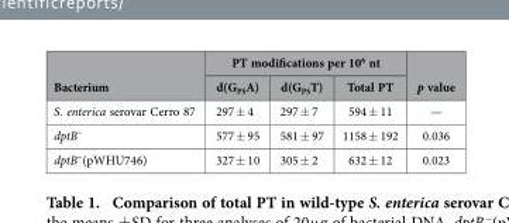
<table><thead><tr><td rowspan="2">Bacterium</td><td colspan="3">PT modifications per 10<sup>6</sup> nt</td><td rowspan="2">p value</td></tr><tr><td>d(G<sub>PS</sub>A)</td><td>d(G<sub>PS</sub>T)</td><td>Total PT</td></tr></thead><tbody><tr><td>S. enterica serovar Cerro 87</td><td>297 ± 4</td><td>297 ± 7</td><td>594 ± 11</td><td>—</td></tr><tr><td>dptBˉ</td><td>577 ± 95</td><td>581 ± 97</td><td>1158 ± 192</td><td>0.036</td></tr><tr><td>dptBˉ(pWHU746)</td><td>327 ± 10</td><td>305 ± 2</td><td>632 ± 12</td><td>0.023</td></tr></tbody></table>